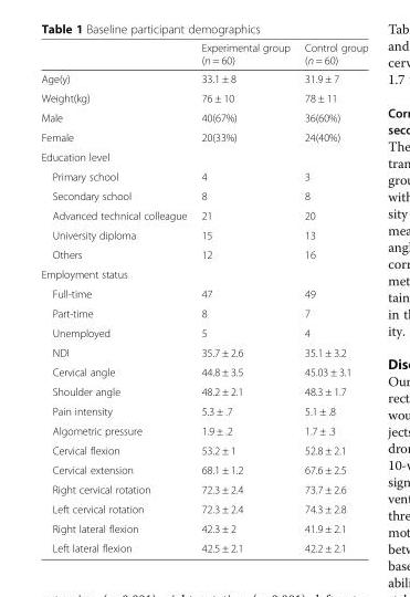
<table><thead><tr><td></td><td>Experimental group (n = 60)</td><td>Control group (n = 60)</td></tr></thead><tbody><tr><td>Age(y)</td><td>33.1 ± 8</td><td>31.9 ± 7</td></tr><tr><td>Weight(kg)</td><td>76 ± 10</td><td>78 ± 11</td></tr><tr><td>Male</td><td>40(67%)</td><td>36(60%)</td></tr><tr><td>Female</td><td>20(33%)</td><td>24(40%)</td></tr><tr><td colspan="3">Education level</td></tr><tr><td>Primary school</td><td>4</td><td>3</td></tr><tr><td>Secondary school</td><td>8</td><td>8</td></tr><tr><td>Advanced technical colleague</td><td>21</td><td>20</td></tr><tr><td>University diploma</td><td>15</td><td>13</td></tr><tr><td>Others</td><td>12</td><td>16</td></tr><tr><td colspan="3">Employment status</td></tr><tr><td>Full-time</td><td>47</td><td>49</td></tr><tr><td>Part-time</td><td>8</td><td>7</td></tr><tr><td>Unemployed</td><td>5</td><td>4</td></tr><tr><td>NDI</td><td>35.7 ± 2.6</td><td>35.1 ± 3.2</td></tr><tr><td>Cervical angle</td><td>44.8 ± 3.5</td><td>45.03 ± 3.1</td></tr><tr><td>Shoulder angle</td><td>48.2 ± 2.1</td><td>48.3 ± 1.7</td></tr><tr><td>Pain intensity</td><td>5.3 ± .7</td><td>5.1 ± .8</td></tr><tr><td>Algometric pressure</td><td>1.9 ± .2</td><td>1.7 ± .3</td></tr><tr><td>Cervical flexion</td><td>53.2 ± 1</td><td>52.8 ± 2.1</td></tr><tr><td>Cervical extension</td><td>68.1 ± 1.2</td><td>67.6 ± 2.5</td></tr><tr><td>Right cervical rotation</td><td>72.3 ± 2.4</td><td>73.7 ± 2.6</td></tr><tr><td>Left cervical rotation</td><td>72.3 ± 2.4</td><td>74.3 ± 2.8</td></tr><tr><td>Right lateral flexion</td><td>42.3 ± 2</td><td>41.9 ± 2.1</td></tr><tr><td>Left lateral flexion</td><td>42.5 ± 2.1</td><td>42.2 ± 2.1</td></tr></tbody></table>